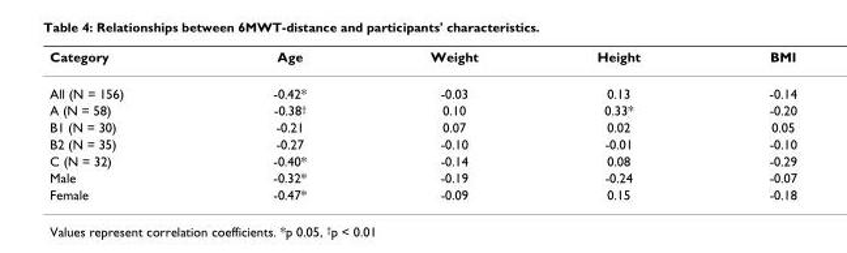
<table><thead><tr><td>Category</td><td>Age</td><td>Weight</td><td>Height</td><td>BMI</td></tr></thead><tbody><tr><td>All (N = 156)</td><td>-0.42*</td><td>-0.03</td><td>0.13</td><td>-0.14</td></tr><tr><td>A (N = 58)</td><td>-0.38<sup>†</sup></td><td>0.10</td><td>0.33*</td><td>-0.20</td></tr><tr><td>B1 (N = 30)</td><td>-0.21</td><td>0.07</td><td>0.02</td><td>0.05</td></tr><tr><td>B2 (N = 35)</td><td>-0.27</td><td>-0.10</td><td>-0.01</td><td>-0.10</td></tr><tr><td>C (N = 32)</td><td>-0.40*</td><td>-0.14</td><td>0.08</td><td>-0.29</td></tr><tr><td>Male</td><td>-0.32*</td><td>-0.19</td><td>-0.24</td><td>-0.07</td></tr><tr><td>Female</td><td>-0.47*</td><td>-0.09</td><td>0.15</td><td>-0.18</td></tr></tbody></table>